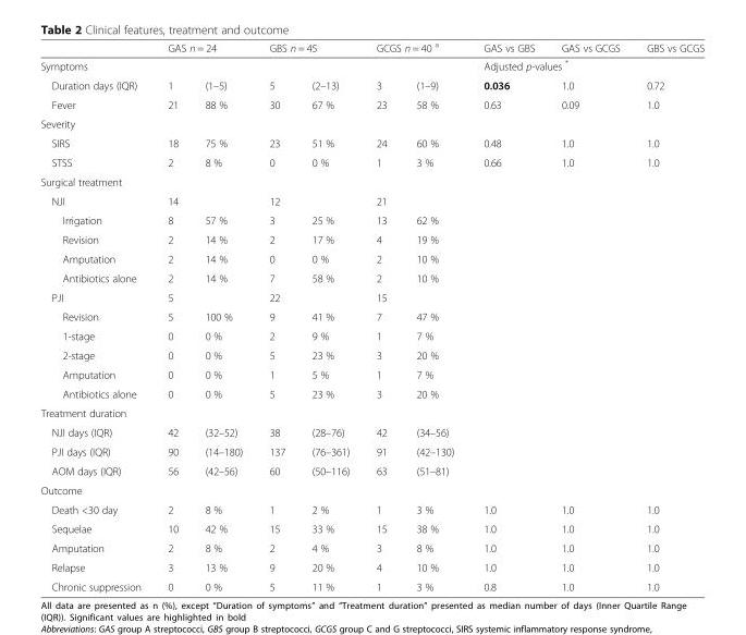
<table><thead><tr><td rowspan="2">Symptoms</td><td colspan="2">GAS n = 24</td><td colspan="2">GBS n = 45</td><td colspan="2">GCGS n = 40 <sup>a</sup></td><td>GAS vs GBS</td><td>GAS vs GCGS</td><td>GBS vs GCGS</td></tr><tr><td></td><td></td><td></td><td></td><td></td><td></td><td colspan="3">Adjusted p-values *</td></tr></thead><tbody><tr><td>Duration days (IQR)</td><td>1</td><td>(1–5)</td><td>5</td><td>(2–13)</td><td>3</td><td>(1–9)</td><td>0.036</td><td>1.0</td><td>0.72</td></tr><tr><td>Fever</td><td>21</td><td>88 %</td><td>30</td><td>67 %</td><td>23</td><td>58 %</td><td>0.63</td><td>0.09</td><td>1.0</td></tr><tr><td colspan="10">Severity</td></tr><tr><td>SIRS</td><td>18</td><td>75 %</td><td>23</td><td>51 %</td><td>24</td><td>60 %</td><td>0.48</td><td>1.0</td><td>1.0</td></tr><tr><td>STSS</td><td>2</td><td>8 %</td><td>0</td><td>0 %</td><td>1</td><td>3 %</td><td>0.66</td><td>1.0</td><td>1.0</td></tr><tr><td colspan="10">Surgical treatment</td></tr><tr><td>NJI</td><td>14</td><td></td><td>12</td><td></td><td>21</td><td></td><td></td><td></td><td></td></tr><tr><td>Irrigation</td><td>8</td><td>57 %</td><td>3</td><td>25 %</td><td>13</td><td>62 %</td><td></td><td></td><td></td></tr><tr><td>Revision</td><td>2</td><td>14 %</td><td>2</td><td>17 %</td><td>4</td><td>19 %</td><td></td><td></td><td></td></tr><tr><td>Amputation</td><td>2</td><td>14 %</td><td>0</td><td>0 %</td><td>2</td><td>10 %</td><td></td><td></td><td></td></tr><tr><td>Antibiotics alone</td><td>2</td><td>14 %</td><td>7</td><td>58 %</td><td>2</td><td>10 %</td><td></td><td></td><td></td></tr><tr><td>PJI</td><td>5</td><td></td><td>22</td><td></td><td>15</td><td></td><td></td><td></td><td></td></tr><tr><td>Revision</td><td>5</td><td>100 %</td><td>9</td><td>41 %</td><td>7</td><td>47 %</td><td></td><td></td><td></td></tr><tr><td>1-stage</td><td>0</td><td>0 %</td><td>2</td><td>9 %</td><td>1</td><td>7 %</td><td></td><td></td><td></td></tr><tr><td>2-stage</td><td>0</td><td>0 %</td><td>5</td><td>23 %</td><td>3</td><td>20 %</td><td></td><td></td><td></td></tr><tr><td>Amputation</td><td>0</td><td>0 %</td><td>1</td><td>5 %</td><td>1</td><td>7 %</td><td></td><td></td><td></td></tr><tr><td>Antibiotics alone</td><td>0</td><td>0 %</td><td>5</td><td>23 %</td><td>3</td><td>20 %</td><td></td><td></td><td></td></tr><tr><td colspan="10">Treatment duration</td></tr><tr><td>NJI days (IQR)</td><td>42</td><td>(32–52)</td><td>38</td><td>(28–76)</td><td>42</td><td>(34–56)</td><td></td><td></td><td></td></tr><tr><td>PJI days (IQR)</td><td>90</td><td>(14–180)</td><td>137</td><td>(76–361)</td><td>91</td><td>(42–130)</td><td></td><td></td><td></td></tr><tr><td>AOM days (IQR)</td><td>56</td><td>(42–56)</td><td>60</td><td>(50–116)</td><td>63</td><td>(51–81)</td><td></td><td></td><td></td></tr><tr><td colspan="10">Outcome</td></tr><tr><td>Death &lt;30 day</td><td>2</td><td>8 %</td><td>1</td><td>2 %</td><td>1</td><td>3 %</td><td>1.0</td><td>1.0</td><td>1.0</td></tr><tr><td>Sequelae</td><td>10</td><td>42 %</td><td>15</td><td>33 %</td><td>15</td><td>38 %</td><td>1.0</td><td>1.0</td><td>1.0</td></tr><tr><td>Amputation</td><td>2</td><td>8 %</td><td>2</td><td>4 %</td><td>3</td><td>8 %</td><td>1.0</td><td>1.0</td><td>1.0</td></tr><tr><td>Relapse</td><td>3</td><td>13 %</td><td>9</td><td>20 %</td><td>4</td><td>10 %</td><td>1.0</td><td>1.0</td><td>1.0</td></tr><tr><td>Chronic suppression</td><td>0</td><td>0 %</td><td>5</td><td>11 %</td><td>1</td><td>3 %</td><td>0.8</td><td>1.0</td><td>1.0</td></tr></tbody></table>